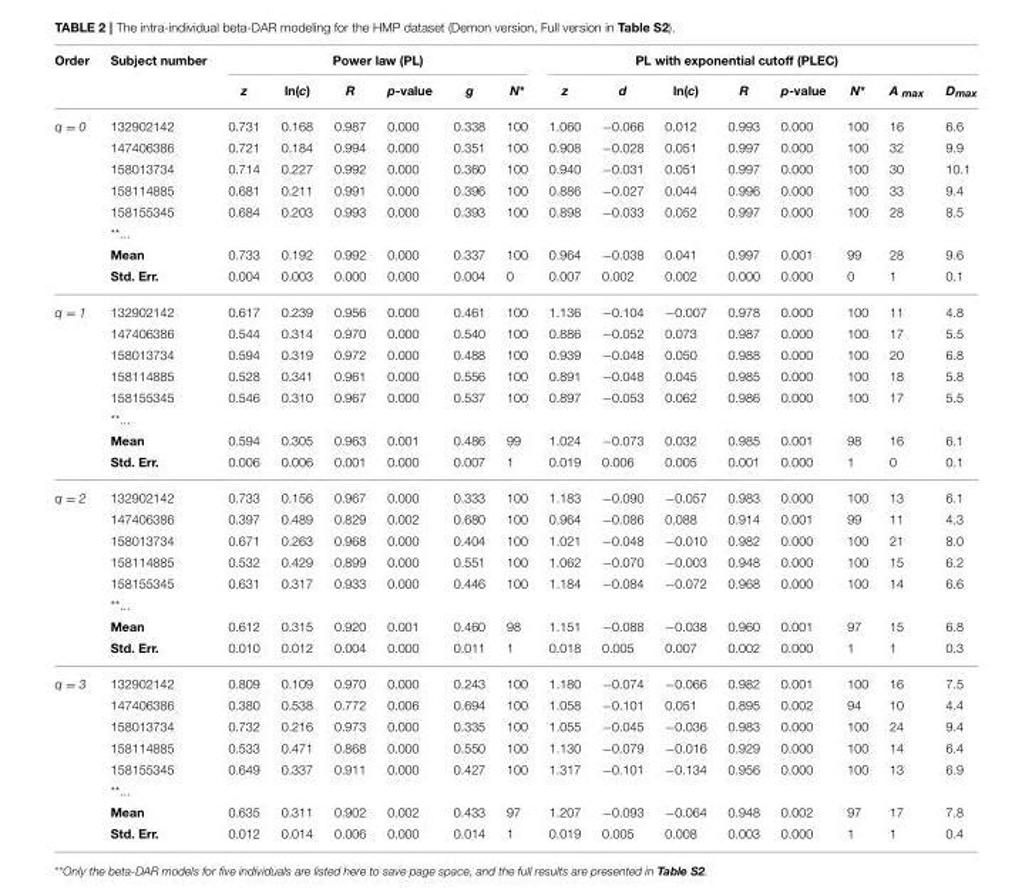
<table><thead><tr><td rowspan="2">Order</td><td rowspan="2">Subject number</td><td colspan="6">Power law (PL)</td><td colspan="8">PL with exponential cutoff (PLEC)</td></tr><tr><td>z</td><td>ln(c)</td><td>R</td><td>p-value</td><td>g</td><td>N*</td><td>z</td><td>d</td><td>ln(c)</td><td>R</td><td>p-value</td><td>N*</td><td>A <sub>max</sub></td><td>D<sub>max</sub></td></tr></thead><tbody><tr><td rowspan="8">q = 0</td><td>132902142</td><td>0.731</td><td>0.168</td><td>0.987</td><td>0.000</td><td>0.338</td><td>100</td><td>1.060</td><td>−0.066</td><td>0.012</td><td>0.993</td><td>0.000</td><td>100</td><td>16</td><td>6.6</td></tr><tr><td>147406386</td><td>0.721</td><td>0.184</td><td>0.994</td><td>0.000</td><td>0.351</td><td>100</td><td>0.908</td><td>−0.028</td><td>0.051</td><td>0.997</td><td>0.000</td><td>100</td><td>32</td><td>9.9</td></tr><tr><td>158013734</td><td>0.714</td><td>0.227</td><td>0.992</td><td>0.000</td><td>0.360</td><td>100</td><td>0.940</td><td>−0.031</td><td>0.051</td><td>0.997</td><td>0.000</td><td>100</td><td>30</td><td>10.1</td></tr><tr><td>158114885</td><td>0.681</td><td>0.211</td><td>0.991</td><td>0.000</td><td>0.396</td><td>100</td><td>0.886</td><td>−0.027</td><td>0.044</td><td>0.996</td><td>0.000</td><td>100</td><td>33</td><td>9.4</td></tr><tr><td>158155345</td><td>0.684</td><td>0.203</td><td>0.993</td><td>0.000</td><td>0.393</td><td>100</td><td>0.898</td><td>−0.033</td><td>0.052</td><td>0.997</td><td>0.000</td><td>100</td><td>28</td><td>8.5</td></tr><tr><td>**...</td><td></td><td></td><td></td><td></td><td></td><td></td><td></td><td></td><td></td><td></td><td></td><td></td><td></td><td></td></tr><tr><td>Mean</td><td>0.733</td><td>0.192</td><td>0.992</td><td>0.000</td><td>0.337</td><td>100</td><td>0.964</td><td>−0.038</td><td>0.041</td><td>0.997</td><td>0.001</td><td>99</td><td>28</td><td>9.6</td></tr><tr><td>Std. Err.</td><td>0.004</td><td>0.003</td><td>0.000</td><td>0.000</td><td>0.004</td><td>0</td><td>0.007</td><td>0.002</td><td>0.002</td><td>0.000</td><td>0.000</td><td>0</td><td>1</td><td>0.1</td></tr><tr><td rowspan="8">q = 1</td><td>132902142</td><td>0.617</td><td>0.239</td><td>0.956</td><td>0.000</td><td>0.461</td><td>100</td><td>1.136</td><td>−0.104</td><td>−0.007</td><td>0.978</td><td>0.000</td><td>100</td><td>11</td><td>4.8</td></tr><tr><td>147406386</td><td>0.544</td><td>0.314</td><td>0.970</td><td>0.000</td><td>0.540</td><td>100</td><td>0.886</td><td>−0.052</td><td>0.073</td><td>0.987</td><td>0.000</td><td>100</td><td>17</td><td>5.5</td></tr><tr><td>158013734</td><td>0.594</td><td>0.319</td><td>0.972</td><td>0.000</td><td>0.488</td><td>100</td><td>0.939</td><td>−0.048</td><td>0.050</td><td>0.988</td><td>0.000</td><td>100</td><td>20</td><td>6.8</td></tr><tr><td>158114885</td><td>0.528</td><td>0.341</td><td>0.961</td><td>0.000</td><td>0.556</td><td>100</td><td>0.891</td><td>−0.048</td><td>0.045</td><td>0.985</td><td>0.000</td><td>100</td><td>18</td><td>5.8</td></tr><tr><td>158155345</td><td>0.546</td><td>0.310</td><td>0.967</td><td>0.000</td><td>0.537</td><td>100</td><td>0.897</td><td>−0.053</td><td>0.062</td><td>0.986</td><td>0.000</td><td>100</td><td>17</td><td>5.5</td></tr><tr><td>**...</td><td></td><td></td><td></td><td></td><td></td><td></td><td></td><td></td><td></td><td></td><td></td><td></td><td></td><td></td></tr><tr><td>Mean</td><td>0.594</td><td>0.305</td><td>0.963</td><td>0.001</td><td>0.486</td><td>99</td><td>1.024</td><td>−0.073</td><td>0.032</td><td>0.985</td><td>0.001</td><td>98</td><td>16</td><td>6.1</td></tr><tr><td>Std. Err.</td><td>0.006</td><td>0.006</td><td>0.001</td><td>0.000</td><td>0.007</td><td>1</td><td>0.019</td><td>0.006</td><td>0.005</td><td>0.001</td><td>0.000</td><td>1</td><td>0</td><td>0.1</td></tr><tr><td rowspan="8">q = 2</td><td>132902142</td><td>0.733</td><td>0.156</td><td>0.967</td><td>0.000</td><td>0.333</td><td>100</td><td>1.183</td><td>−0.090</td><td>−0.057</td><td>0.983</td><td>0.000</td><td>100</td><td>13</td><td>6.1</td></tr><tr><td>147406386</td><td>0.397</td><td>0.489</td><td>0.829</td><td>0.002</td><td>0.680</td><td>100</td><td>0.964</td><td>−0.086</td><td>0.088</td><td>0.914</td><td>0.001</td><td>99</td><td>11</td><td>4.3</td></tr><tr><td>158013734</td><td>0.671</td><td>0.263</td><td>0.968</td><td>0.000</td><td>0.404</td><td>100</td><td>1.021</td><td>−0.048</td><td>−0.010</td><td>0.982</td><td>0.000</td><td>100</td><td>21</td><td>8.0</td></tr><tr><td>158114885</td><td>0.532</td><td>0.429</td><td>0.899</td><td>0.000</td><td>0.551</td><td>100</td><td>1.062</td><td>−0.070</td><td>−0.003</td><td>0.948</td><td>0.000</td><td>100</td><td>15</td><td>6.2</td></tr><tr><td>158155345</td><td>0.631</td><td>0.317</td><td>0.933</td><td>0.000</td><td>0.446</td><td>100</td><td>1.184</td><td>−0.084</td><td>−0.072</td><td>0.968</td><td>0.000</td><td>100</td><td>14</td><td>6.6</td></tr><tr><td>**...</td><td></td><td></td><td></td><td></td><td></td><td></td><td></td><td></td><td></td><td></td><td></td><td></td><td></td><td></td></tr><tr><td>Mean</td><td>0.612</td><td>0.315</td><td>0.920</td><td>0.001</td><td>0.460</td><td>98</td><td>1.151</td><td>−0.088</td><td>−0.038</td><td>0.960</td><td>0.001</td><td>97</td><td>15</td><td>6.8</td></tr><tr><td>Std. Err.</td><td>0.010</td><td>0.012</td><td>0.004</td><td>0.000</td><td>0.011</td><td>1</td><td>0.018</td><td>0.005</td><td>0.007</td><td>0.002</td><td>0.000</td><td>1</td><td>1</td><td>0.3</td></tr><tr><td rowspan="8">q = 3</td><td>132902142</td><td>0.809</td><td>0.109</td><td>0.970</td><td>0.000</td><td>0.243</td><td>100</td><td>1.180</td><td>−0.074</td><td>−0.066</td><td>0.982</td><td>0.001</td><td>100</td><td>16</td><td>7.5</td></tr><tr><td>147406386</td><td>0.380</td><td>0.538</td><td>0.772</td><td>0.006</td><td>0.694</td><td>100</td><td>1.058</td><td>−0.101</td><td>0.051</td><td>0.895</td><td>0.002</td><td>94</td><td>10</td><td>4.4</td></tr><tr><td>158013734</td><td>0.732</td><td>0.216</td><td>0.973</td><td>0.000</td><td>0.335</td><td>100</td><td>1.055</td><td>−0.045</td><td>−0.036</td><td>0.983</td><td>0.000</td><td>100</td><td>24</td><td>9.4</td></tr><tr><td>158114885</td><td>0.533</td><td>0.471</td><td>0.868</td><td>0.000</td><td>0.550</td><td>100</td><td>1.130</td><td>−0.079</td><td>−0.016</td><td>0.929</td><td>0.000</td><td>100</td><td>14</td><td>6.4</td></tr><tr><td>158155345</td><td>0.649</td><td>0.337</td><td>0.911</td><td>0.000</td><td>0.427</td><td>100</td><td>1.317</td><td>−0.101</td><td>−0.134</td><td>0.956</td><td>0.000</td><td>100</td><td>13</td><td>6.9</td></tr><tr><td>**...</td><td></td><td></td><td></td><td></td><td></td><td></td><td></td><td></td><td></td><td></td><td></td><td></td><td></td><td></td></tr><tr><td>Mean</td><td>0.635</td><td>0.311</td><td>0.902</td><td>0.002</td><td>0.433</td><td>97</td><td>1.207</td><td>−0.093</td><td>−0.064</td><td>0.948</td><td>0.002</td><td>97</td><td>17</td><td>7.8</td></tr><tr><td>Std. Err.</td><td>0.012</td><td>0.014</td><td>0.006</td><td>0.000</td><td>0.014</td><td>1</td><td>0.019</td><td>0.005</td><td>0.008</td><td>0.003</td><td>0.000</td><td>1</td><td>1</td><td>0.4</td></tr></tbody></table>